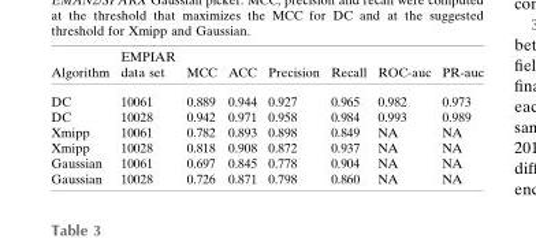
<table><thead><tr><td>Algorithm</td><td>EMPIAR data set</td><td>MCC</td><td>ACC</td><td>Precision</td><td>Recall</td><td>ROC-auc</td><td>PR-auc</td></tr></thead><tbody><tr><td>DC</td><td>10061</td><td>0.889</td><td>0.944</td><td>0.927</td><td>0.965</td><td>0.982</td><td>0.973</td></tr><tr><td>DC</td><td>10028</td><td>0.942</td><td>0.971</td><td>0.958</td><td>0.984</td><td>0.993</td><td>0.989</td></tr><tr><td>Xmipp</td><td>10061</td><td>0.782</td><td>0.893</td><td>0.898</td><td>0.849</td><td>NA</td><td>NA</td></tr><tr><td>Xmipp</td><td>10028</td><td>0.818</td><td>0.908</td><td>0.872</td><td>0.937</td><td>NA</td><td>NA</td></tr><tr><td>Gaussian</td><td>10061</td><td>0.697</td><td>0.845</td><td>0.778</td><td>0.904</td><td>NA</td><td>NA</td></tr><tr><td>Gaussian</td><td>10028</td><td>0.726</td><td>0.871</td><td>0.798</td><td>0.860</td><td>NA</td><td>NA</td></tr></tbody></table>